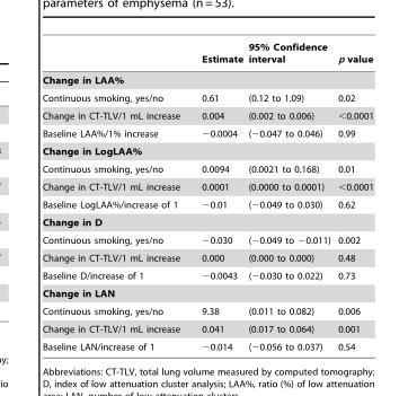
<table><thead><tr><td></td><td>Estimate</td><td>95% Confidence interval</td><td>p value</td></tr></thead><tbody><tr><td colspan="4">Change in LAA%</td></tr><tr><td>Continuous smoking, yes/no</td><td>0.61</td><td>(0.12 to 1.09)</td><td>0.02</td></tr><tr><td>Change in CT-TLV/1 mL increase</td><td>0.004</td><td>(0.002 to 0.006)</td><td>&lt;0.0001</td></tr><tr><td>Baseline LAA%/1% increase</td><td>−0.0004</td><td>(−0.047 to 0.046)</td><td>0.99</td></tr><tr><td colspan="4">Change in LogLAA%</td></tr><tr><td>Continuous smoking, yes/no</td><td>0.0094</td><td>(0.0021 to 0.168)</td><td>0.01</td></tr><tr><td>Change in CT-TLV/1 mL increase</td><td>0.0001</td><td>(0.0000 to 0.0001)</td><td>&lt;0.0001</td></tr><tr><td>Baseline LogLAA%/increase of 1</td><td>−0.01</td><td>(−0.049 to 0.030)</td><td>0.62</td></tr><tr><td colspan="4">Change in D</td></tr><tr><td>Continuous smoking, yes/no</td><td>−0.030</td><td>(−0.049 to −0.011)</td><td>0.002</td></tr><tr><td>Change in CT-TLV/1 mL increase</td><td>0.000</td><td>(0.000 to 0.000)</td><td>0.48</td></tr><tr><td>Baseline D/increase of 1</td><td>−0.0043</td><td>(−0.030 to 0.022)</td><td>0.73</td></tr><tr><td colspan="4">Change in LAN</td></tr><tr><td>Continuous smoking, yes/no</td><td>9.38</td><td>(0.011 to 0.082)</td><td>0.006</td></tr><tr><td>Change in CT-TLV/1 mL increase</td><td>0.041</td><td>(0.017 to 0.064)</td><td>0.001</td></tr><tr><td>Baseline LAN/increase of 1</td><td>−0.014</td><td>(−0.056 to 0.037)</td><td>0.54</td></tr></tbody></table>